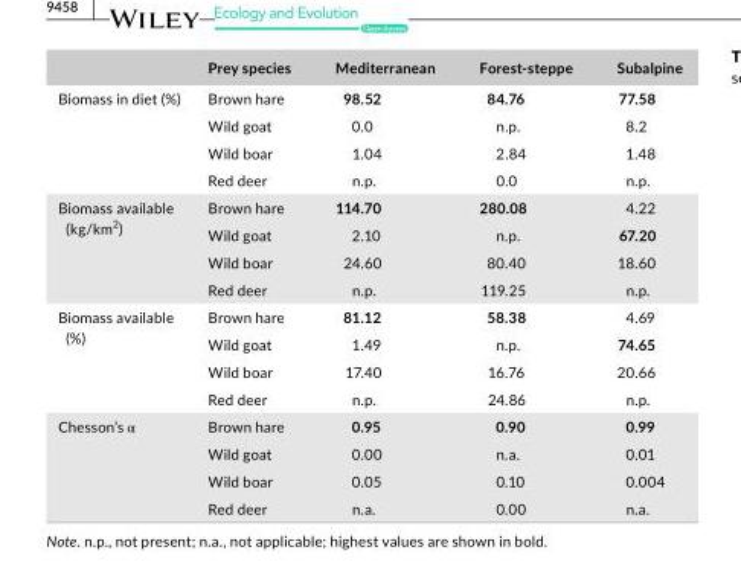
<table><thead><tr><td></td><td>Prey species</td><td>Mediterranean</td><td>Forest- steppe</td><td>Subalpine</td></tr></thead><tbody><tr><td rowspan="4">Biomass in diet (%)</td><td>Brown hare</td><td>98.52</td><td>84.76</td><td>77.58</td></tr><tr><td>Wild goat</td><td>0.0</td><td>n.p.</td><td>8.2</td></tr><tr><td>Wild boar</td><td>1.04</td><td>2.84</td><td>1.48</td></tr><tr><td>Red deer</td><td>n.p.</td><td>0.0</td><td>n.p.</td></tr><tr><td rowspan="4">Biomass available (kg/km<sup>2</sup>)</td><td>Brown hare</td><td>114.70</td><td>280.08</td><td>4.22</td></tr><tr><td>Wild goat</td><td>2.10</td><td>n.p.</td><td>67.20</td></tr><tr><td>Wild boar</td><td>24.60</td><td>80.40</td><td>18.60</td></tr><tr><td>Red deer</td><td>n.p.</td><td>119.25</td><td>n.p.</td></tr><tr><td rowspan="4">Biomass available (%)</td><td>Brown hare</td><td>81.12</td><td>58.38</td><td>4.69</td></tr><tr><td>Wild goat</td><td>1.49</td><td>n.p.</td><td>74.65</td></tr><tr><td>Wild boar</td><td>17.40</td><td>16.76</td><td>20.66</td></tr><tr><td>Red deer</td><td>n.p.</td><td>24.86</td><td>n.p.</td></tr><tr><td rowspan="4">Chesson’s α</td><td>Brown hare</td><td>0.95</td><td>0.90</td><td>0.99</td></tr><tr><td>Wild goat</td><td>0.00</td><td>n.a.</td><td>0.01</td></tr><tr><td>Wild boar</td><td>0.05</td><td>0.10</td><td>0.004</td></tr><tr><td>Red deer</td><td>n.a.</td><td>0.00</td><td>n.a.</td></tr></tbody></table>